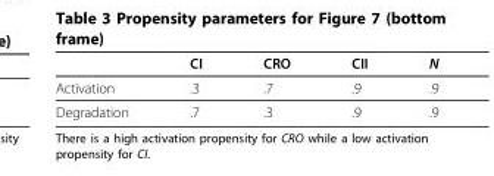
<table><thead><tr><td></td><td>CI</td><td>CRO</td><td>CII</td><td>N</td></tr></thead><tbody><tr><td>Activation</td><td>.3</td><td>.7</td><td>.9</td><td>.9</td></tr><tr><td>Degradation</td><td>.7</td><td>.3</td><td>.9</td><td>.9</td></tr></tbody></table>